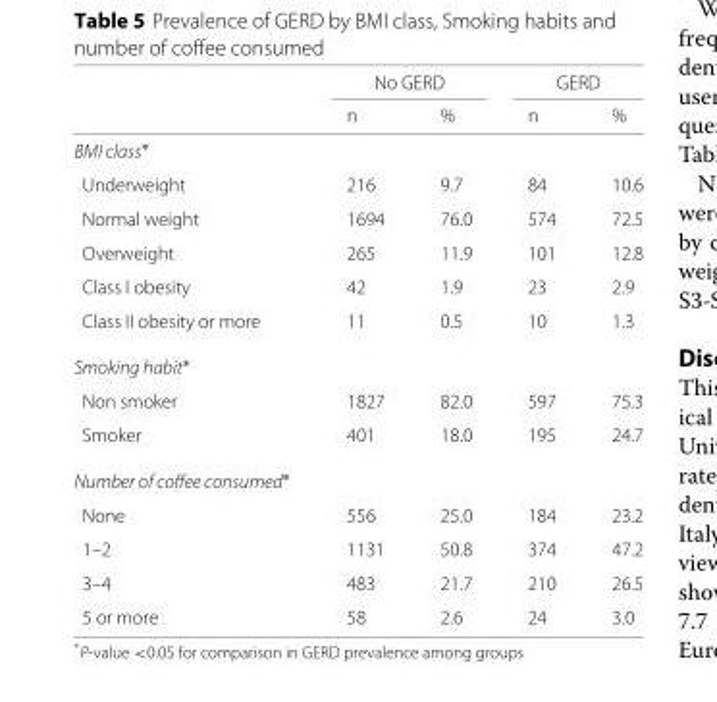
<table><thead><tr><td rowspan="2"></td><td colspan="2">No GERD</td><td colspan="2">GERD</td></tr><tr><td>n</td><td>%</td><td>n</td><td>%</td></tr></thead><tbody><tr><td colspan="5">BMI class∗</td></tr><tr><td>Underweight</td><td>216</td><td>9.7</td><td>84</td><td>10.6</td></tr><tr><td>Normal weight</td><td>1694</td><td>76.0</td><td>574</td><td>72.5</td></tr><tr><td>Overweight</td><td>265</td><td>11.9</td><td>101</td><td>12.8</td></tr><tr><td>Class I obesity</td><td>42</td><td>1.9</td><td>23</td><td>2.9</td></tr><tr><td>Class II obesity or more</td><td>11</td><td>0.5</td><td>10</td><td>1.3</td></tr><tr><td colspan="5">Smoking habit∗</td></tr><tr><td>Non smoker</td><td>1827</td><td>82.0</td><td>597</td><td>75.3</td></tr><tr><td>Smoker</td><td>401</td><td>18.0</td><td>195</td><td>24.7</td></tr><tr><td colspan="5">Number of coffee consumed∗</td></tr><tr><td>None</td><td>556</td><td>25.0</td><td>184</td><td>23.2</td></tr><tr><td>1–2</td><td>1131</td><td>50.8</td><td>374</td><td>47.2</td></tr><tr><td>3–4</td><td>483</td><td>21.7</td><td>210</td><td>26.5</td></tr><tr><td>5 or more</td><td>58</td><td>2.6</td><td>24</td><td>3.0</td></tr></tbody></table>